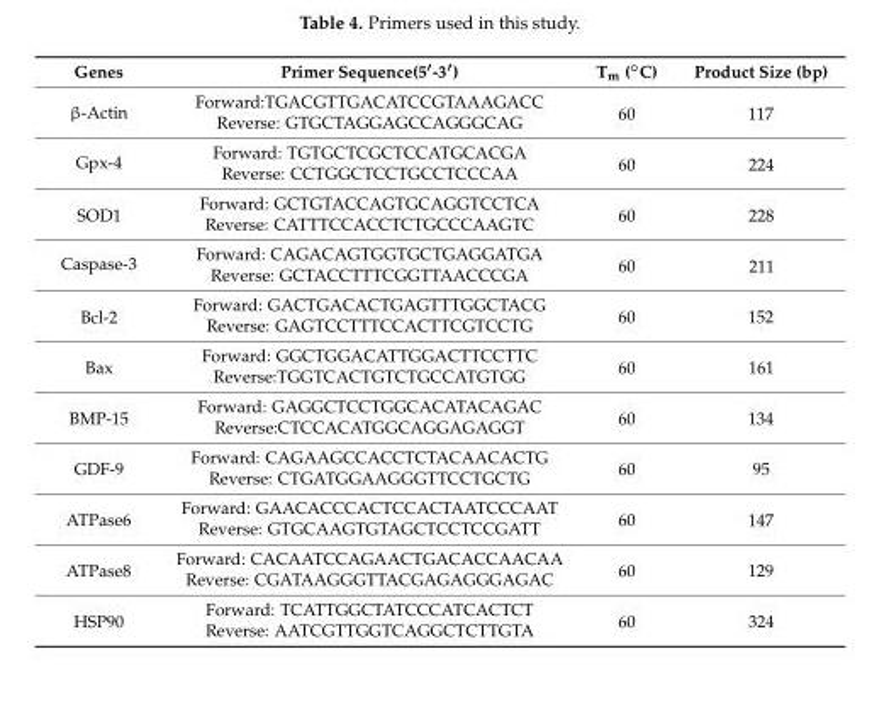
<table><thead><tr><td>Genes</td><td>Primer Sequence(5′-3′)</td><td>Tm (◦C)</td><td>Product Size (bp)</td></tr></thead><tbody><tr><td rowspan="2">β-Actin</td><td>Forward:TGACGTTGACATCCGTAAAGACC</td><td rowspan="2">60</td><td rowspan="2">117</td></tr><tr><td>Reverse: GTGCTAGGAGCCAGGGCAG</td></tr><tr><td rowspan="2">Gpx-4</td><td>Forward: TGTGCTCGCTCCATGCACGA</td><td rowspan="2">60</td><td rowspan="2">224</td></tr><tr><td>Reverse: CCTGGCTCCTGCCTCCCAA</td></tr><tr><td rowspan="2">SOD1</td><td>Forward: GCTGTACCAGTGCAGGTCCTCA</td><td rowspan="2">60</td><td rowspan="2">228</td></tr><tr><td>Reverse: CATTTCCACCTCTGCCCAAGTC</td></tr><tr><td rowspan="2">Caspase-3</td><td>Forward: CAGACAGTGGTGCTGAGGATGA</td><td rowspan="2">60</td><td rowspan="2">211</td></tr><tr><td>Reverse: GCTACCTTTCGGTTAACCCGA</td></tr><tr><td rowspan="2">Bcl-2</td><td>Forward: GACTGACACTGAGTTTGGCTACG</td><td rowspan="2">60</td><td rowspan="2">152</td></tr><tr><td>Reverse: GAGTCCTTTCCACTTCGTCCTG</td></tr><tr><td rowspan="2">Bax</td><td>Forward: GGCTGGACATTGGACTTCCTTC</td><td rowspan="2">60</td><td rowspan="2">161</td></tr><tr><td>Reverse:TGGTCACTGTCTGCCATGTGG</td></tr><tr><td rowspan="2">BMP-15</td><td>Forward: GAGGCTCCTGGCACATACAGAC</td><td rowspan="2">60</td><td rowspan="2">134</td></tr><tr><td>Reverse:CTCCACATGGCAGGAGAGGT</td></tr><tr><td rowspan="2">GDF-9</td><td>Forward: CAGAAGCCACCTCTACAACACTG</td><td rowspan="2">60</td><td rowspan="2">95</td></tr><tr><td>Reverse: CTGATGGAAGGGTTCCTGCTG</td></tr><tr><td rowspan="2">ATPase6</td><td>Forward: GAACACCCACTCCACTAATCCCAAT</td><td rowspan="2">60</td><td rowspan="2">147</td></tr><tr><td>Reverse: GTGCAAGTGTAGCTCCTCCGATT</td></tr><tr><td rowspan="2">ATPase8</td><td>Forward: CACAATCCAGAACTGACACCAACAA</td><td rowspan="2">60</td><td rowspan="2">129</td></tr><tr><td>Reverse: CGATAAGGGTTACGAGAGGGAGAC</td></tr><tr><td rowspan="2">HSP90</td><td>Forward: TCATTGGCTATCCCATCACTCT</td><td rowspan="2">60</td><td rowspan="2">324</td></tr><tr><td>Reverse: AATCGTTGGTCAGGCTCTTGTA</td></tr></tbody></table>